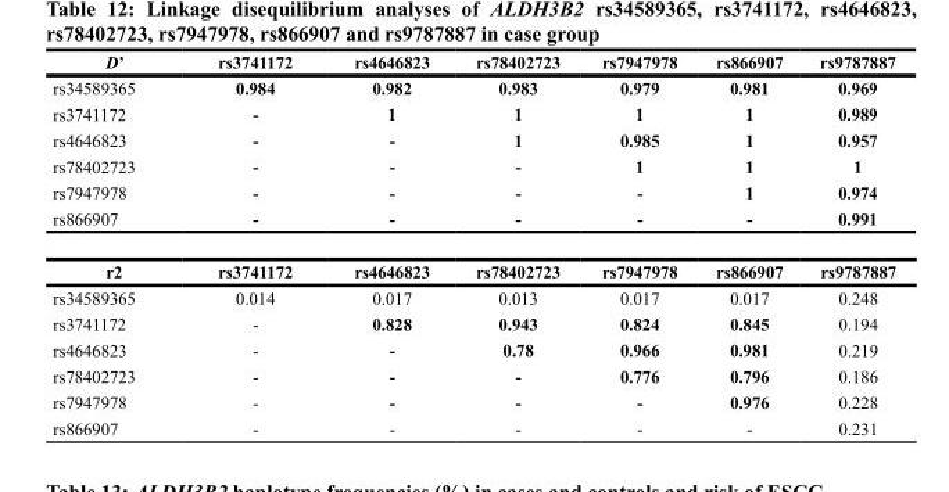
<table><thead><tr><td>D’</td><td>rs3741172</td><td>rs4646823</td><td>rs78402723</td><td>rs7947978</td><td>rs866907</td><td>rs9787887</td></tr></thead><tbody><tr><td>rs34589365</td><td>0.984</td><td>0.982</td><td>0.983</td><td>0.979</td><td>0.981</td><td>0.969</td></tr><tr><td>rs3741172</td><td>-</td><td>1</td><td>1</td><td>1</td><td>1</td><td>0.989</td></tr><tr><td>rs4646823</td><td>-</td><td>-</td><td>1</td><td>0.985</td><td>1</td><td>0.957</td></tr><tr><td>rs78402723</td><td>-</td><td>-</td><td>-</td><td>1</td><td>1</td><td>1</td></tr><tr><td>rs7947978</td><td>-</td><td>-</td><td>-</td><td>-</td><td>1</td><td>0.974</td></tr><tr><td>rs866907</td><td>-</td><td>-</td><td>-</td><td>-</td><td>-</td><td>0.991</td></tr><tr><td>r2</td><td>rs3741172</td><td>rs4646823</td><td>rs78402723</td><td>rs7947978</td><td>rs866907</td><td>rs9787887</td></tr><tr><td>rs34589365</td><td>0.014</td><td>0.017</td><td>0.013</td><td>0.017</td><td>0.017</td><td>0.248</td></tr><tr><td>rs3741172</td><td>-</td><td>0.828</td><td>0.943</td><td>0.824</td><td>0.845</td><td>0.194</td></tr><tr><td>rs4646823</td><td>-</td><td>-</td><td>0.78</td><td>0.966</td><td>0.981</td><td>0.219</td></tr><tr><td>rs78402723</td><td>-</td><td>-</td><td>-</td><td>0.776</td><td>0.796</td><td>0.186</td></tr><tr><td>rs7947978</td><td>-</td><td>-</td><td>-</td><td>-</td><td>0.976</td><td>0.228</td></tr><tr><td>rs866907</td><td>-</td><td>-</td><td>-</td><td>-</td><td>-</td><td>0.231</td></tr></tbody></table>